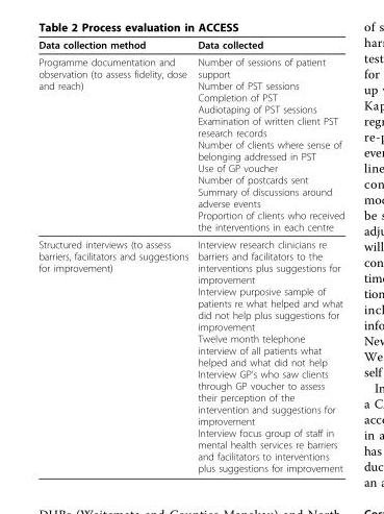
<table><thead><tr><td>Data collection method</td><td>Data collected</td></tr></thead><tbody><tr><td>Programme documentation and observation (to assess fidelity, dose and reach)</td><td>Number of sessions of patient support Number of PST sessions Completion of PST Audiotaping of PST sessions Examination of written client PST research records Number of clients where sense of belonging addressed in PST Use of GP voucher Number of postcards sent Summary of discussions around adverse events Proportion of clients who received the interventions in each centre</td></tr><tr><td>Structured interviews (to assess barriers, facilitators and suggestions for improvement)</td><td>Interview research clinicians re barriers and facilitators to the interventions plus suggestions for improvement Interview purposive sample of patients re what helped and what did not help plus suggestions for improvement Twelve month telephone interview of all patients what helped and what did not help Interview GP’s who saw clients through GP voucher to assess their perception of the intervention and suggestions for improvement Interview focus group of staff in mental health services re barriers and facilitators to interventions plus suggestions for improvement</td></tr></tbody></table>